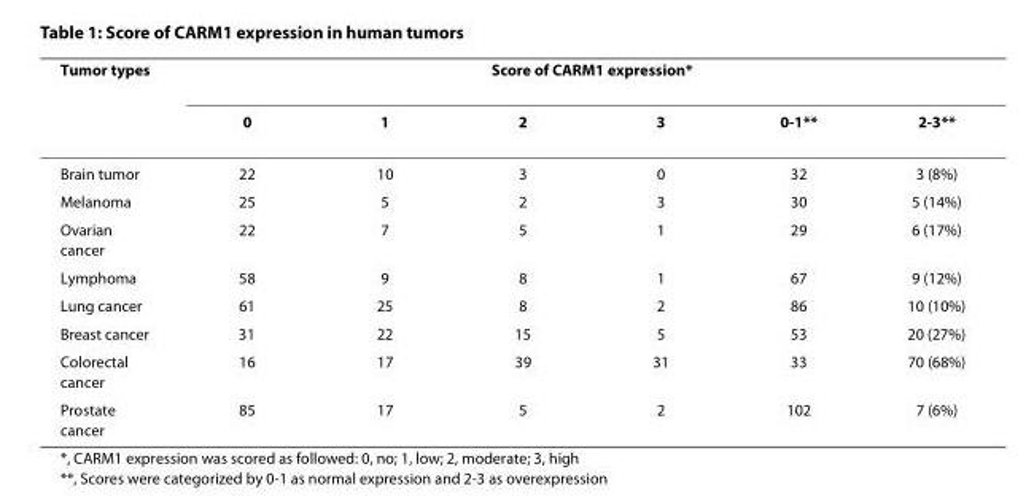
<table><thead><tr><td rowspan="2">Tumor types</td><td colspan="6">Score of CARM1 expression*</td></tr><tr><td>0</td><td>1</td><td>2</td><td>3</td><td>0-1**</td><td>2-3**</td></tr></thead><tbody><tr><td>Brain tumor</td><td>22</td><td>10</td><td>3</td><td>0</td><td>32</td><td>3 (8%)</td></tr><tr><td>Melanoma</td><td>25</td><td>5</td><td>2</td><td>3</td><td>30</td><td>5 (14%)</td></tr><tr><td>Ovarian cancer</td><td>22</td><td>7</td><td>5</td><td>1</td><td>29</td><td>6 (17%)</td></tr><tr><td>Lymphoma</td><td>58</td><td>9</td><td>8</td><td>1</td><td>67</td><td>9 (12%)</td></tr><tr><td>Lung cancer</td><td>61</td><td>25</td><td>8</td><td>2</td><td>86</td><td>10 (10%)</td></tr><tr><td>Breast cancer</td><td>31</td><td>22</td><td>15</td><td>5</td><td>53</td><td>20 (27%)</td></tr><tr><td>Colorectal cancer</td><td>16</td><td>17</td><td>39</td><td>31</td><td>33</td><td>70 (68%)</td></tr><tr><td>Prostate cancer</td><td>85</td><td>17</td><td>5</td><td>2</td><td>102</td><td>7 (6%)</td></tr></tbody></table>